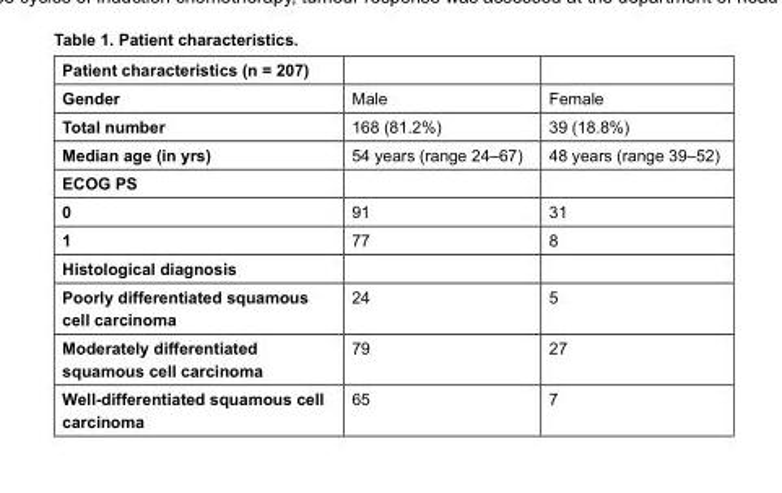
<table><thead><tr><td>Patient characteristics (n = 207)</td><td></td><td></td></tr></thead><tbody><tr><td>Gender</td><td>Male</td><td>Female</td></tr><tr><td>Total number</td><td>168 (81.2%)</td><td>39 (18.8%)</td></tr><tr><td>Median age (in yrs)</td><td>54 years (range 24–67)</td><td>48 years (range 39–52)</td></tr><tr><td colspan="3">ECOG PS</td></tr><tr><td>0</td><td>91</td><td>31</td></tr><tr><td>1</td><td>77</td><td>8</td></tr><tr><td colspan="3">Histological diagnosis</td></tr><tr><td>Poorly differentiated squamous cell carcinoma</td><td>24</td><td>5</td></tr><tr><td>Moderately differentiated squamous cell carcinoma</td><td>79</td><td>27</td></tr><tr><td>Well-differentiated squamous cell carcinoma</td><td>65</td><td>7</td></tr></tbody></table>